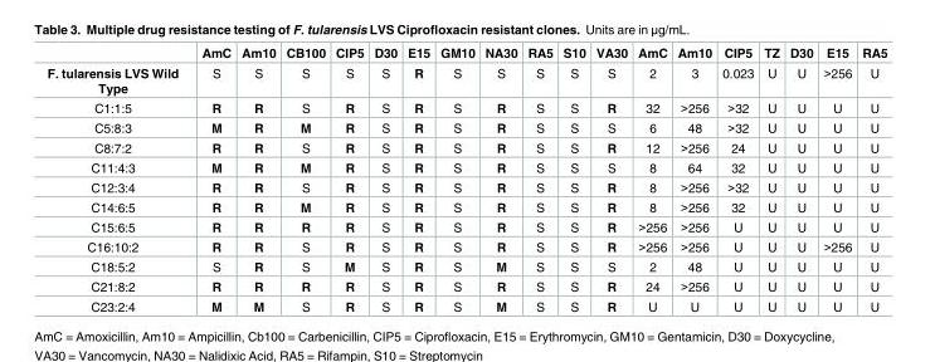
<table><thead><tr><td></td><td>AmC</td><td>Am10</td><td>CB100</td><td>CIP5</td><td>D30</td><td>E15</td><td>GM10</td><td>NA30</td><td>RA5</td><td>S10</td><td>VA30</td><td>AmC</td><td>Am10</td><td>CIP5</td><td>TZ</td><td>D30</td><td>E15</td><td>RA5</td></tr></thead><tbody><tr><td>F. tularensis LVS Wild Type</td><td>S</td><td>S</td><td>S</td><td>S</td><td>S</td><td>R</td><td>S</td><td>S</td><td>S</td><td>S</td><td>S</td><td>2</td><td>3</td><td>0.023</td><td>U</td><td>U</td><td>&gt;256</td><td>U</td></tr><tr><td>C1:1:5</td><td>R</td><td>R</td><td>S</td><td>R</td><td>S</td><td>R</td><td>S</td><td>R</td><td>S</td><td>S</td><td>R</td><td>32</td><td>&gt;256</td><td>&gt;32</td><td>U</td><td>U</td><td>U</td><td>U</td></tr><tr><td>C5:8:3</td><td>M</td><td>R</td><td>M</td><td>R</td><td>S</td><td>R</td><td>S</td><td>R</td><td>S</td><td>S</td><td>S</td><td>6</td><td>48</td><td>&gt;32</td><td>U</td><td>U</td><td>U</td><td>U</td></tr><tr><td>C8:7:2</td><td>R</td><td>R</td><td>S</td><td>R</td><td>S</td><td>R</td><td>S</td><td>R</td><td>S</td><td>S</td><td>R</td><td>12</td><td>&gt;256</td><td>24</td><td>U</td><td>U</td><td>U</td><td>U</td></tr><tr><td>C11:4:3</td><td>M</td><td>R</td><td>M</td><td>R</td><td>S</td><td>R</td><td>S</td><td>R</td><td>S</td><td>S</td><td>S</td><td>8</td><td>64</td><td>32</td><td>U</td><td>U</td><td>U</td><td>U</td></tr><tr><td>C12:3:4</td><td>R</td><td>R</td><td>S</td><td>R</td><td>S</td><td>R</td><td>S</td><td>R</td><td>S</td><td>S</td><td>R</td><td>8</td><td>&gt;256</td><td>&gt;32</td><td>U</td><td>U</td><td>U</td><td>U</td></tr><tr><td>C14:6:5</td><td>R</td><td>R</td><td>M</td><td>R</td><td>S</td><td>R</td><td>S</td><td>R</td><td>S</td><td>S</td><td>R</td><td>8</td><td>&gt;256</td><td>32</td><td>U</td><td>U</td><td>U</td><td>U</td></tr><tr><td>C15:6:5</td><td>R</td><td>R</td><td>R</td><td>R</td><td>S</td><td>R</td><td>S</td><td>R</td><td>S</td><td>S</td><td>R</td><td>&gt;256</td><td>&gt;256</td><td>U</td><td>U</td><td>U</td><td>U</td><td>U</td></tr><tr><td>C16:10:2</td><td>R</td><td>R</td><td>S</td><td>R</td><td>S</td><td>R</td><td>S</td><td>R</td><td>S</td><td>S</td><td>R</td><td>&gt;256</td><td>&gt;256</td><td>U</td><td>U</td><td>U</td><td>&gt;256</td><td>U</td></tr><tr><td>C18:5:2</td><td>S</td><td>R</td><td>S</td><td>M</td><td>S</td><td>R</td><td>S</td><td>M</td><td>S</td><td>S</td><td>S</td><td>2</td><td>48</td><td>U</td><td>U</td><td>U</td><td>U</td><td>U</td></tr><tr><td>C21:8:2</td><td>R</td><td>R</td><td>R</td><td>R</td><td>S</td><td>R</td><td>S</td><td>R</td><td>S</td><td>S</td><td>R</td><td>24</td><td>&gt;256</td><td>U</td><td>U</td><td>U</td><td>U</td><td>U</td></tr><tr><td>C23:2:4</td><td>M</td><td>M</td><td>S</td><td>R</td><td>S</td><td>R</td><td>S</td><td>M</td><td>S</td><td>S</td><td>R</td><td>U</td><td>U</td><td>U</td><td>U</td><td>U</td><td>U</td><td>U</td></tr></tbody></table>